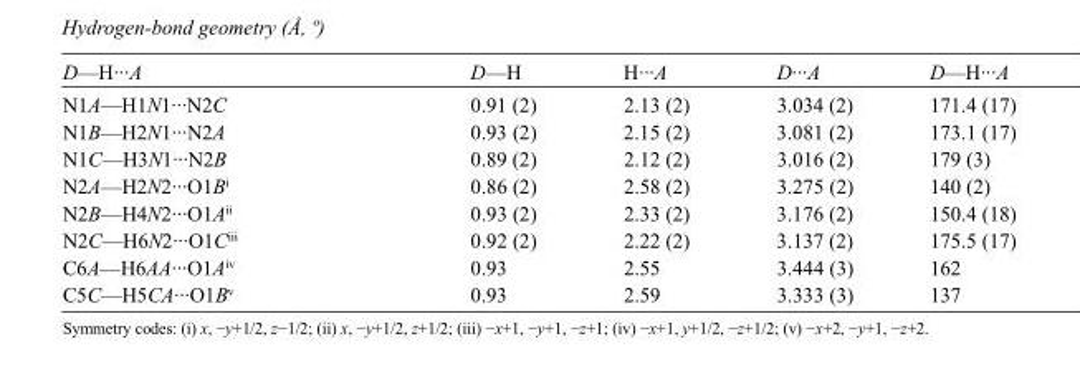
<table><tbody><tr><td>D—H···A</td><td>D—H</td><td>H···A</td><td>D···A</td><td>D—H···A</td></tr><tr><td>N1A—H1N1···N2C</td><td>0.91 (2)</td><td>2.13 (2)</td><td>3.034 (2)</td><td>171.4 (17)</td></tr><tr><td>N1B—H2N1···N2A</td><td>0.93 (2)</td><td>2.15 (2)</td><td>3.081 (2)</td><td>173.1 (17)</td></tr><tr><td>N1C—H3N1···N2B</td><td>0.89 (2)</td><td>2.12 (2)</td><td>3.016 (2)</td><td>179 (3)</td></tr><tr><td>N2A—H2N2···O1B<sup>i</sup></td><td>0.86 (2)</td><td>2.58 (2)</td><td>3.275 (2)</td><td>140 (2)</td></tr><tr><td>N2B—H4N2···O1A<sup>ii</sup></td><td>0.93 (2)</td><td>2.33 (2)</td><td>3.176 (2)</td><td>150.4 (18)</td></tr><tr><td>N2C—H6N2···O1C<sup>iii</sup></td><td>0.92 (2)</td><td>2.22 (2)</td><td>3.137 (2)</td><td>175.5 (17)</td></tr><tr><td>C6A—H6AA···O1A<sup>iv</sup></td><td>0.93</td><td>2.55</td><td>3.444 (3)</td><td>162</td></tr><tr><td>C5C—H5CA···O1B<sup>v</sup></td><td>0.93</td><td>2.59</td><td>3.333 (3)</td><td>137</td></tr></tbody></table>